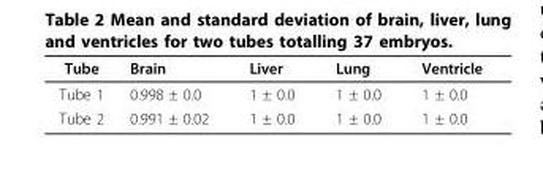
<table><thead><tr><td>Tube</td><td>Brain</td><td>Liver</td><td>Lung</td><td>Ventricle</td></tr></thead><tbody><tr><td>Tube 1</td><td>0.998 ± 0.0</td><td>1 ± 0.0</td><td>1 ± 0.0</td><td>1 ± 0.0</td></tr><tr><td>Tube 2</td><td>0.991 ± 0.02</td><td>1 ± 0.0</td><td>1 ± 0.0</td><td>1 ± 0.0</td></tr></tbody></table>